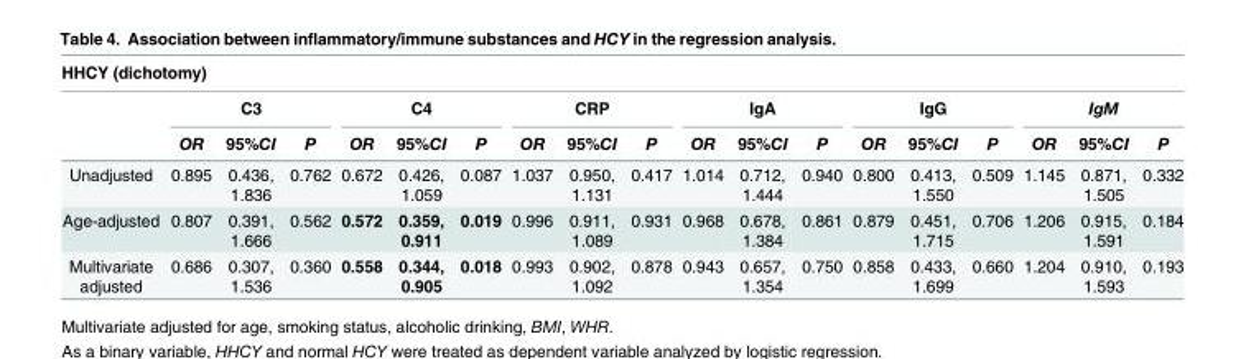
<table><thead><tr><td colspan="19">HHCY (dichotomy)</td></tr><tr><td rowspan="2"></td><td colspan="3">C3</td><td colspan="3">C4</td><td colspan="3">CRP</td><td colspan="3">IgA</td><td colspan="3">IgG</td><td colspan="3">IgM</td></tr><tr><td>OR</td><td>95%CI</td><td>P</td><td>OR</td><td>95%CI</td><td>P</td><td>OR</td><td>95%CI</td><td>P</td><td>OR</td><td>95%CI</td><td>P</td><td>OR</td><td>95%CI</td><td>P</td><td>OR</td><td>95%CI</td><td>P</td></tr></thead><tbody><tr><td>Unadjusted</td><td>0.895</td><td>0.436, 1.836</td><td>0.762</td><td>0.672</td><td>0.426, 1.059</td><td>0.087</td><td>1.037</td><td>0.950, 1.131</td><td>0.417</td><td>1.014</td><td>0.712, 1.444</td><td>0.940</td><td>0.800</td><td>0.413, 1.550</td><td>0.509</td><td>1.145</td><td>0.871, 1.505</td><td>0.332</td></tr><tr><td>Age-adjusted</td><td>0.807</td><td>0.391, 1.666</td><td>0.562</td><td>0.572</td><td>0.359, 0.911</td><td>0.019</td><td>0.996</td><td>0.911, 1.089</td><td>0.931</td><td>0.968</td><td>0.678, 1.384</td><td>0.861</td><td>0.879</td><td>0.451, 1.715</td><td>0.706</td><td>1.206</td><td>0.915, 1.591</td><td>0.184</td></tr><tr><td>Multivariate adjusted</td><td>0.686</td><td>0.307, 1.536</td><td>0.360</td><td>0.558</td><td>0.344, 0.905</td><td>0.018</td><td>0.993</td><td>0.902, 1.092</td><td>0.878</td><td>0.943</td><td>0.657, 1.354</td><td>0.750</td><td>0.858</td><td>0.433, 1.699</td><td>0.660</td><td>1.204</td><td>0.910, 1.593</td><td>0.193</td></tr></tbody></table>